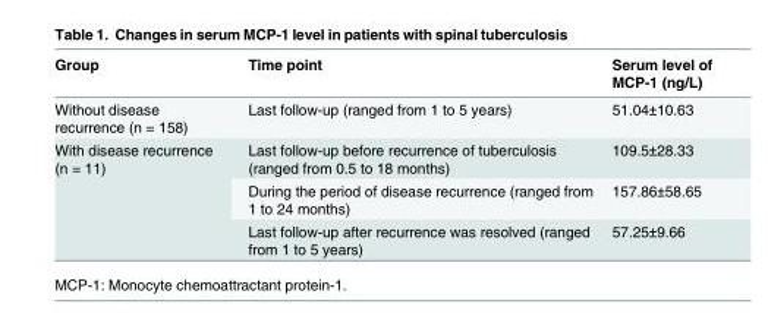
<table><thead><tr><td>Group</td><td>Time point</td><td>Serum level of MCP-1 (ng/L)</td></tr></thead><tbody><tr><td>Without disease recurrence (n = 158)</td><td>Last follow-up (ranged from 1 to 5 years)</td><td>51.04±10.63</td></tr><tr><td rowspan="3">With disease recurrence (n = 11)</td><td>Last follow-up before recurrence of tuberculosis (ranged from 0.5 to 18 months)</td><td>109.5±28.33</td></tr><tr><td>During the period of disease recurrence (ranged from 1 to 24 months)</td><td>157.86±58.65</td></tr><tr><td>Last follow-up after recurrence was resolved (ranged from 1 to 5 years)</td><td>57.25±9.66</td></tr></tbody></table>